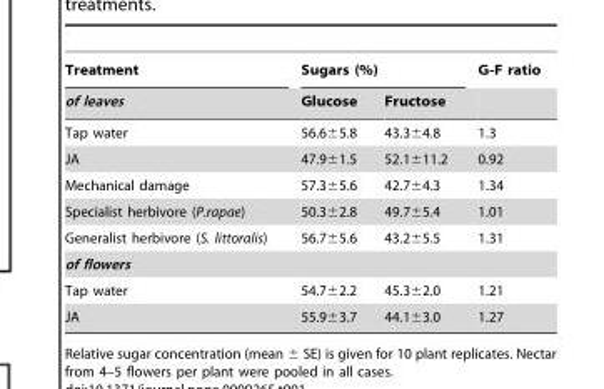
<table><thead><tr><td rowspan="2">Treatment of leaves</td><td colspan="2">Sugars (%)</td><td rowspan="2">G-F ratio</td></tr><tr><td>Glucose</td><td>Fructose</td></tr></thead><tbody><tr><td>Tap water</td><td>56.6±5.8</td><td>43.3±4.8</td><td>1.3</td></tr><tr><td>JA</td><td>47.9±1.5</td><td>52.1±11.2</td><td>0.92</td></tr><tr><td>Mechanical damage</td><td>57.3±5.6</td><td>42.7±4.3</td><td>1.34</td></tr><tr><td>Specialist herbivore (P.rapae)</td><td>50.3±2.8</td><td>49.7±5.4</td><td>1.01</td></tr><tr><td>Generalist herbivore (S. littoralis)</td><td>56.7±5.6</td><td>43.2±5.5</td><td>1.31</td></tr><tr><td colspan="4">of flowers</td></tr><tr><td>Tap water</td><td>54.7±2.2</td><td>45.3±2.0</td><td>1.21</td></tr><tr><td>JA</td><td>55.9±3.7</td><td>44.1±3.0</td><td>1.27</td></tr></tbody></table>